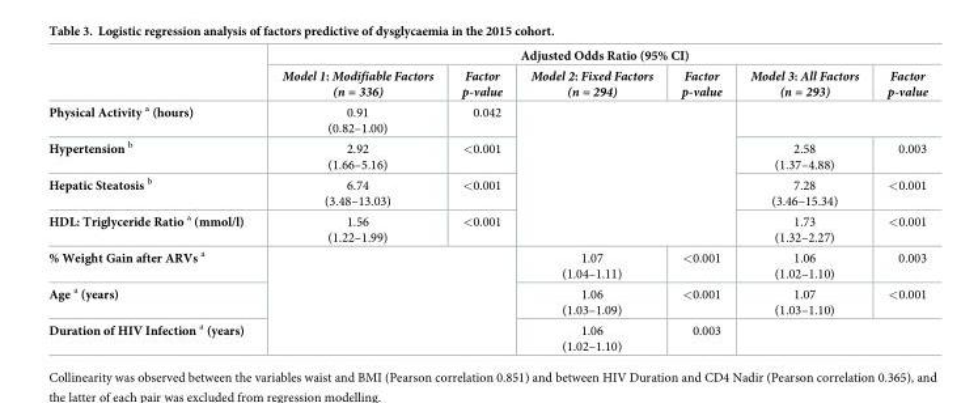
<table><thead><tr><td rowspan="2"></td><td colspan="6">Adjusted Odds Ratio (95% CI)</td></tr><tr><td>Model 1: Modifiable Factors (n = 336)</td><td>Factor p-value</td><td>Model 2: Fixed Factors (n = 294)</td><td>Factor p-value</td><td>Model 3: All Factors (n = 293)</td><td>Factor p-value</td></tr></thead><tbody><tr><td>Physical Activity <sup>a</sup> (hours)</td><td>0.91 (0.82–1.00)</td><td>0.042</td><td rowspan="4" colspan="2"></td><td colspan="2"></td></tr><tr><td>Hypertension <sup>b</sup></td><td>2.92 (1.66–5.16)</td><td>&lt;0.001</td><td>2.58 (1.37–4.88)</td><td>0.003</td></tr><tr><td>Hepatic Steatosis <sup>b</sup></td><td>6.74 (3.48–13.03)</td><td>&lt;0.001</td><td>7.28 (3.46–15.34)</td><td>&lt;0.001</td></tr><tr><td>HDL: Triglyceride Ratio <sup>a</sup> (mmol/l)</td><td>1.56 (1.22–1.99)</td><td>&lt;0.001</td><td>1.73 (1.32–2.27)</td><td>&lt;0.001</td></tr><tr><td>% Weight Gain after ARVs <sup>a</sup></td><td rowspan="3" colspan="2"></td><td>1.07 (1.04–1.11)</td><td>&lt;0.001</td><td>1.06 (1.02–1.10)</td><td>0.003</td></tr><tr><td>Age <sup>a</sup> (years)</td><td>1.06 (1.03–1.09)</td><td>&lt;0.001</td><td>1.07 (1.03–1.10)</td><td>&lt;0.001</td></tr><tr><td>Duration of HIV Infection <sup>a</sup> (years)</td><td>1.06 (1.02–1.10)</td><td>0.003</td><td colspan="2"></td></tr></tbody></table>